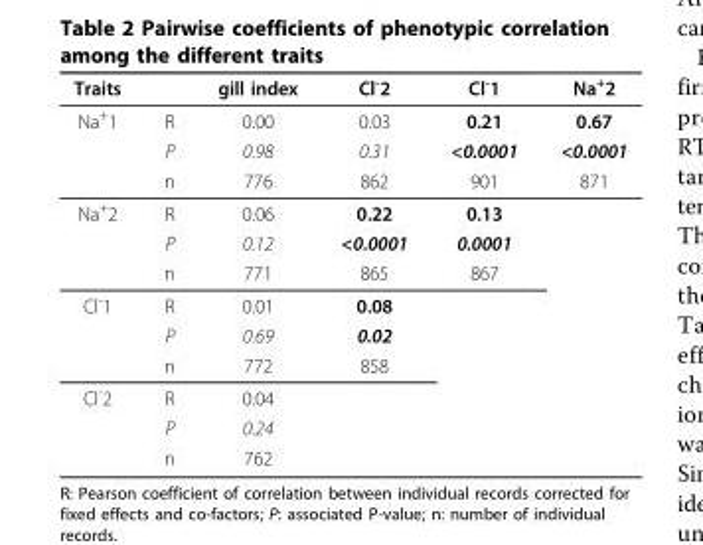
<table><thead><tr><td>Traits</td><td></td><td>gill index</td><td>Cl<sup>-</sup>2</td><td>Cl<sup>-</sup>1</td><td>Na<sup>+</sup>2</td></tr></thead><tbody><tr><td rowspan="3">Na<sup>+</sup>1</td><td>R</td><td>0.00</td><td>0.03</td><td>0.21</td><td>0.67</td></tr><tr><td>P</td><td>0.98</td><td>0.31</td><td>&lt;0.0001</td><td>&lt;0.0001</td></tr><tr><td>n</td><td>776</td><td>862</td><td>901</td><td>871</td></tr><tr><td rowspan="3">Na<sup>+</sup>2</td><td>R</td><td>0.06</td><td>0.22</td><td>0.13</td><td></td></tr><tr><td>P</td><td>0.12</td><td>&lt;0.0001</td><td>0.0001</td><td></td></tr><tr><td>n</td><td>771</td><td>865</td><td>867</td><td></td></tr><tr><td rowspan="3">Cl<sup>-</sup>1</td><td>R</td><td>0.01</td><td>0.08</td><td></td><td></td></tr><tr><td>P</td><td>0.69</td><td>0.02</td><td></td><td></td></tr><tr><td>n</td><td>772</td><td>858</td><td></td><td></td></tr><tr><td rowspan="3">Cl<sup>-</sup>2</td><td>R</td><td>0.04</td><td></td><td></td><td></td></tr><tr><td>P</td><td>0.24</td><td></td><td></td><td></td></tr><tr><td>n</td><td>762</td><td></td><td></td><td></td></tr></tbody></table>